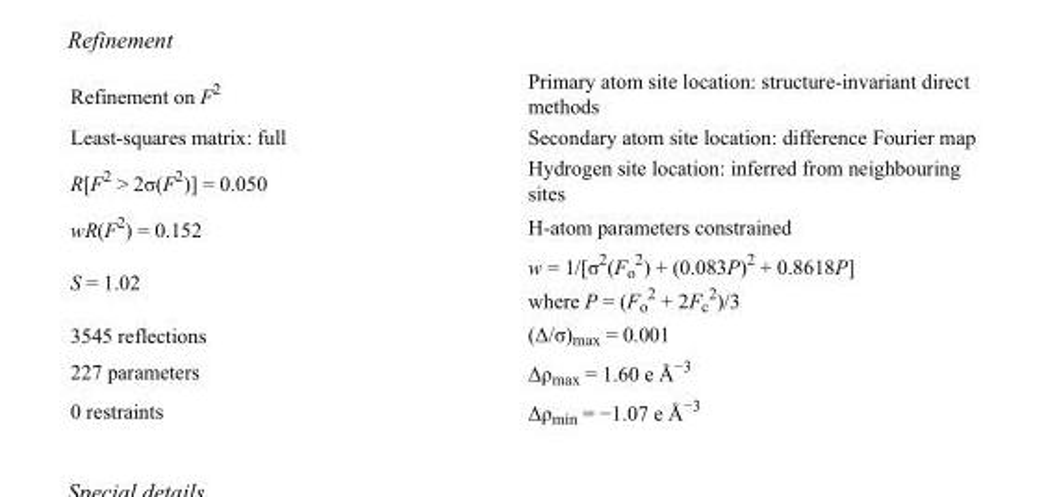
<table><tbody><tr><td>Refinement on F<sup>2</sup></td><td>Primary atom site location: structure-invariant direct methods</td></tr><tr><td>Least-squares matrix: full</td><td>Secondary atom site location: difference Fourier map</td></tr><tr><td>R[F<sup>2</sup> &gt; 2σ(F<sup>2</sup>)] = 0.050</td><td>Hydrogen site location: inferred from neighbouring sites</td></tr><tr><td>wR(F<sup>2</sup>) = 0.152</td><td>H-atom parameters constrained</td></tr><tr><td>S = 1.02</td><td>w = 1/[σ<sup>2</sup>(F<sub>o</sub> <sup>2</sup>) + (0.083P)<sup>2</sup> + 0.8618P] where P = (F<sub>o</sub> <sup>2</sup> + 2F<sub>c</sub> <sup>2</sup>)/3</td></tr><tr><td>3545 reflections</td><td>(Δ/σ)<sub>max</sub> = 0.001</td></tr><tr><td>227 parameters</td><td>Δρ<sub>max</sub> = 1.60 e Å<sup>−3</sup></td></tr><tr><td>0 restraints</td><td>Δρ<sub>min</sub> = −1.07 e Å<sup>−3</sup></td></tr></tbody></table>